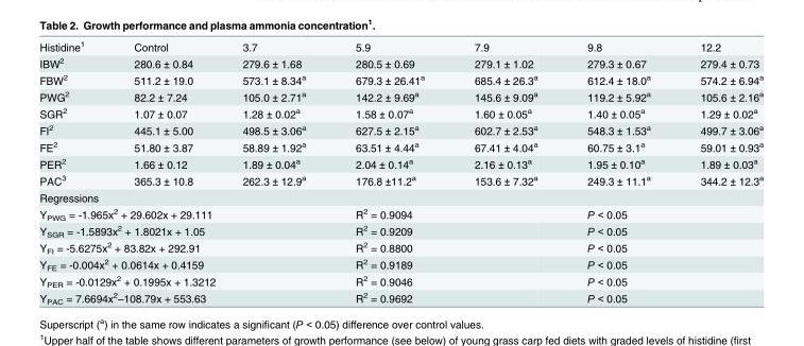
<table><tbody><tr><td>Histidine<sup>1</sup></td><td>Control</td><td>3.7</td><td>5.9</td><td>7.9</td><td>9.8</td><td>12.2</td></tr><tr><td>IBW<sup>2</sup></td><td>280.6 ± 0.84</td><td>279.6 ± 1.68</td><td>280.5 ± 0.69</td><td>279.1 ± 1.02</td><td>279.3 ± 0.67</td><td>279.4 ± 0.73</td></tr><tr><td>FBW<sup>2</sup></td><td>511.2 ± 19.0</td><td>573.1 ± 8.34<sup>a</sup></td><td>679.3 ± 26.41<sup>a</sup></td><td>685.4 ± 26.3<sup>a</sup></td><td>612.4 ± 18.0<sup>a</sup></td><td>574.2 ± 6.94<sup>a</sup></td></tr><tr><td>PWG<sup>2</sup></td><td>82.2 ± 7.24</td><td>105.0 ± 2.71<sup>a</sup></td><td>142.2 ± 9.69<sup>a</sup></td><td>145.6 ± 9.09<sup>a</sup></td><td>119.2 ± 5.92<sup>a</sup></td><td>105.6 ± 2.16<sup>a</sup></td></tr><tr><td>SGR<sup>2</sup></td><td>1.07 ± 0.07</td><td>1.28 ± 0.02<sup>a</sup></td><td>1.58 ± 0.07<sup>a</sup></td><td>1.60 ± 0.05<sup>a</sup></td><td>1.40 ± 0.05<sup>a</sup></td><td>1.29 ± 0.02<sup>a</sup></td></tr><tr><td>FI<sup>2</sup></td><td>445.1 ± 5.00</td><td>498.5 ± 3.06<sup>a</sup></td><td>627.5 ± 2.15<sup>a</sup></td><td>602.7 ± 2.53<sup>a</sup></td><td>548.3 ± 1.53<sup>a</sup></td><td>499.7 ± 3.06<sup>a</sup></td></tr><tr><td>FE<sup>2</sup></td><td>51.80 ± 3.87</td><td>58.89 ± 1.92<sup>a</sup></td><td>63.51 ± 4.44<sup>a</sup></td><td>67.41 ± 4.04<sup>a</sup></td><td>60.75 ± 3.1<sup>a</sup></td><td>59.01 ± 0.93<sup>a</sup></td></tr><tr><td>PER<sup>2</sup></td><td>1.66 ± 0.12</td><td>1.89 ± 0.04<sup>a</sup></td><td>2.04 ± 0.14<sup>a</sup></td><td>2.16 ± 0.13<sup>a</sup></td><td>1.95 ± 0.10<sup>a</sup></td><td>1.89 ± 0.03<sup>a</sup></td></tr><tr><td>PAC<sup>3</sup></td><td>365.3 ± 10.8</td><td>262.3 ± 12.9<sup>a</sup></td><td>176.8 ±11.2<sup>a</sup></td><td>153.6 ± 7.32<sup>a</sup></td><td>249.3 ± 11.1<sup>a</sup></td><td>344.2 ± 12.3<sup>a</sup></td></tr><tr><td colspan="7">Regressions</td></tr><tr><td colspan="3">Y<sub>PWG</sub> = -1.965x<sup>2</sup> + 29.602x + 29.111</td><td colspan="2">R<sup>2</sup> = 0.9094</td><td colspan="2">P &lt; 0.05</td></tr><tr><td colspan="3">Y<sub>SGR</sub> = -1.5893x<sup>2</sup> + 1.8021x + 1.05</td><td colspan="2">R<sup>2</sup> = 0.9209</td><td colspan="2">P &lt; 0.05</td></tr><tr><td colspan="3">Y<sub>FI</sub> = -5.6275x<sup>2</sup> + 83.82x + 292.91</td><td colspan="2">R<sup>2</sup> = 0.8800</td><td colspan="2">P &lt; 0.05</td></tr><tr><td colspan="3">Y<sub>FE</sub> = -0.004x<sup>2</sup> + 0.0614x + 0.4159</td><td colspan="2">R<sup>2</sup> = 0.9189</td><td colspan="2">P &lt; 0.05</td></tr><tr><td colspan="3">Y<sub>PER</sub> = -0.0129x<sup>2</sup> + 0.1995x + 1.3212</td><td colspan="2">R<sup>2</sup> = 0.9046</td><td colspan="2">P &lt; 0.05</td></tr><tr><td colspan="3">Y<sub>PAC</sub> = 7.6694x<sup>2</sup>–108.79x + 553.63</td><td colspan="2">R<sup>2</sup> = 0.9692</td><td colspan="2">P &lt; 0.05</td></tr></tbody></table>